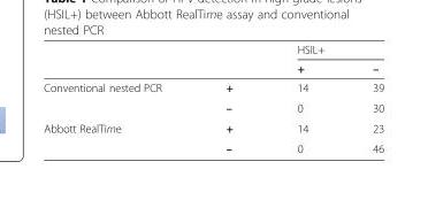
<table><thead><tr><td rowspan="2"></td><td rowspan="2"></td><td colspan="2">HSIL+</td></tr><tr><td>+</td><td>–</td></tr></thead><tbody><tr><td rowspan="2">Conventional nested PCR</td><td>+</td><td>14</td><td>39</td></tr><tr><td>–</td><td>0</td><td>30</td></tr><tr><td rowspan="2">Abbott RealTime</td><td>+</td><td>14</td><td>23</td></tr><tr><td>–</td><td>0</td><td>46</td></tr></tbody></table>